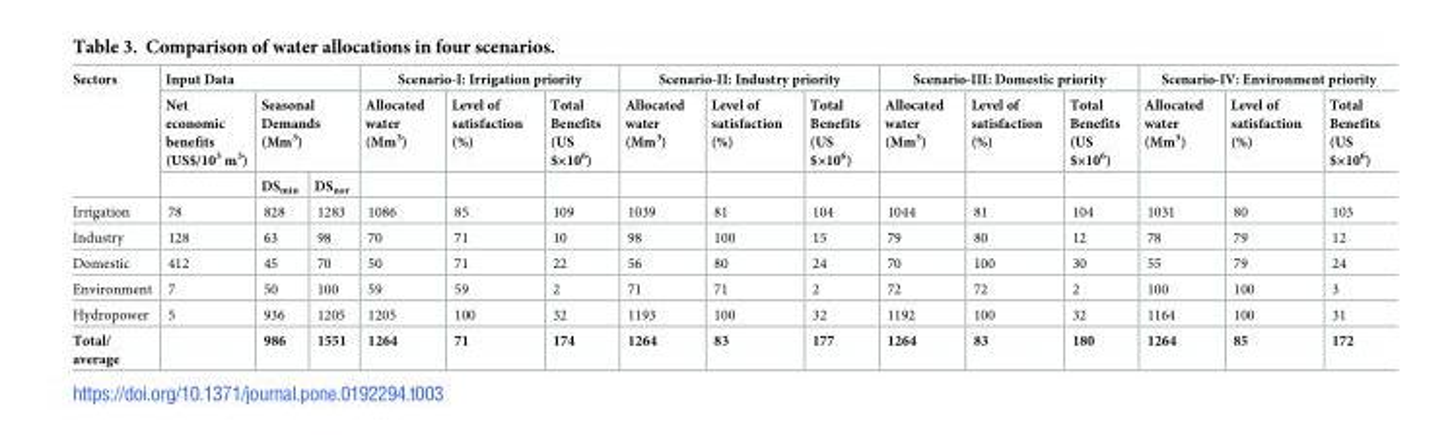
<table><thead><tr><td rowspan="3">Sectors</td><td colspan="3">Input Data</td><td colspan="3">Scenario-I: Irrigation priority</td><td colspan="3">Scenario-II: Industry priority</td><td colspan="3">Scenario-III: Domestic priority</td><td colspan="3">Scenario-IV: Environment priority</td></tr><tr><td rowspan="2">Net economic benefits (US$/10<sup>3</sup> m<sup>3</sup>)</td><td colspan="2">Seasonal Demands (Mm<sup>3</sup>)</td><td rowspan="2">Allocated water (Mm<sup>3</sup>)</td><td rowspan="2">Level of satisfaction (%)</td><td rowspan="2">Total Benefits (US $×10<sup>6</sup>)</td><td rowspan="2">Allocated water (Mm<sup>3</sup>)</td><td rowspan="2">Level of satisfaction (%)</td><td rowspan="2">Total Benefits (US $×10<sup>6</sup>)</td><td rowspan="2">Allocated water (Mm<sup>3</sup>)</td><td rowspan="2">Level of satisfaction (%)</td><td rowspan="2">Total Benefits (US $×10<sup>6</sup>)</td><td rowspan="2">Allocated water (Mm<sup>3</sup>)</td><td rowspan="2">Level of satisfaction (%)</td><td rowspan="2">Total Benefits (US $×10<sup>6</sup>)</td></tr><tr><td>DS<sub>min</sub></td><td>DS<sub>nor</sub></td></tr></thead><tbody><tr><td>Irrigation</td><td>78</td><td>828</td><td>1283</td><td>1086</td><td>85</td><td>109</td><td>1039</td><td>81</td><td>104</td><td>1044</td><td>81</td><td>104</td><td>1031</td><td>80</td><td>103</td></tr><tr><td>Industry</td><td>128</td><td>63</td><td>98</td><td>70</td><td>71</td><td>10</td><td>98</td><td>100</td><td>15</td><td>79</td><td>80</td><td>12</td><td>78</td><td>79</td><td>12</td></tr><tr><td>Domestic</td><td>412</td><td>45</td><td>70</td><td>50</td><td>71</td><td>22</td><td>56</td><td>80</td><td>24</td><td>70</td><td>100</td><td>30</td><td>55</td><td>79</td><td>24</td></tr><tr><td>Environment</td><td>7</td><td>50</td><td>100</td><td>59</td><td>59</td><td>2</td><td>71</td><td>71</td><td>2</td><td>72</td><td>72</td><td>2</td><td>100</td><td>100</td><td>3</td></tr><tr><td>Hydropower</td><td>5</td><td>936</td><td>1205</td><td>1205</td><td>100</td><td>32</td><td>1193</td><td>100</td><td>32</td><td>1192</td><td>100</td><td>32</td><td>1164</td><td>100</td><td>31</td></tr><tr><td>Total/ average</td><td></td><td>986</td><td>1551</td><td>1264</td><td>71</td><td>174</td><td>1264</td><td>83</td><td>177</td><td>1264</td><td>83</td><td>180</td><td>1264</td><td>85</td><td>172</td></tr></tbody></table>